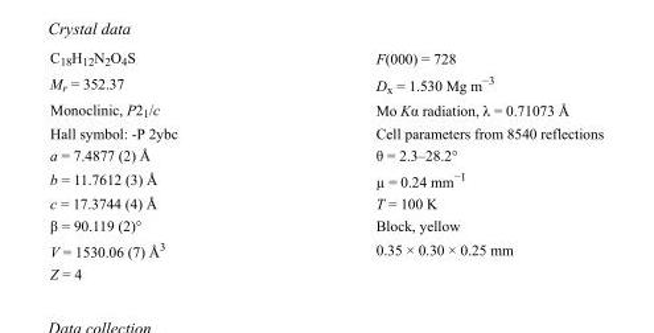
<table><tbody><tr><td>C<sub>18</sub>H<sub>12</sub>N<sub>2</sub>O<sub>4</sub>S</td><td>F(000) = 728</td></tr><tr><td>M<sub>r</sub> = 352.37</td><td>D<sub>x</sub> = 1.530 Mg m<sup>−3</sup></td></tr><tr><td>Monoclinic, P2<sub>1</sub>/c</td><td>Mo Kα radiation, λ = 0.71073 Å</td></tr><tr><td>Hall symbol: -P 2ybc</td><td>Cell parameters from 8540 reflections</td></tr><tr><td>a = 7.4877 (2) Å</td><td>θ = 2.3–28.2°</td></tr><tr><td>b = 11.7612 (3) Å</td><td>µ = 0.24 mm<sup>−1</sup></td></tr><tr><td>c = 17.3744 (4) Å</td><td>T = 100 K</td></tr><tr><td>β = 90.119 (2)°</td><td>Block, yellow</td></tr><tr><td>V = 1530.06 (7) Å<sup>3</sup></td><td>0.35 × 0.30 × 0.25 mm</td></tr><tr><td>Z = 4</td><td></td></tr></tbody></table>